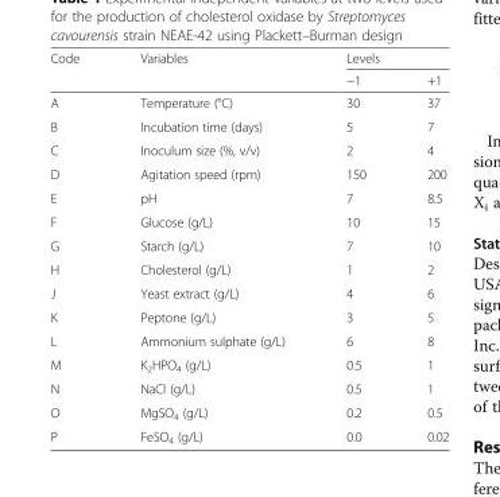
<table><thead><tr><td rowspan="2">Code</td><td rowspan="2">Variables</td><td colspan="2">Levels</td></tr><tr><td>−1</td><td>+1</td></tr></thead><tbody><tr><td>A</td><td>Temperature (°C)</td><td>30</td><td>37</td></tr><tr><td>B</td><td>Incubation time (days)</td><td>5</td><td>7</td></tr><tr><td>C</td><td>Inoculum size (%, v/v)</td><td>2</td><td>4</td></tr><tr><td>D</td><td>Agitation speed (rpm)</td><td>150</td><td>200</td></tr><tr><td>E</td><td>pH</td><td>7</td><td>8.5</td></tr><tr><td>F</td><td>Glucose (g/L)</td><td>10</td><td>15</td></tr><tr><td>G</td><td>Starch (g/L)</td><td>7</td><td>10</td></tr><tr><td>H</td><td>Cholesterol (g/L)</td><td>1</td><td>2</td></tr><tr><td>J</td><td>Yeast extract (g/L)</td><td>4</td><td>6</td></tr><tr><td>K</td><td>Peptone (g/L)</td><td>3</td><td>5</td></tr><tr><td>L</td><td>Ammonium sulphate (g/L)</td><td>6</td><td>8</td></tr><tr><td>M</td><td>K<sub>2</sub>HPO<sub>4</sub> (g/L)</td><td>0.5</td><td>1</td></tr><tr><td>N</td><td>NaCl (g/L)</td><td>0.5</td><td>1</td></tr><tr><td>O</td><td>MgSO<sub>4</sub> (g/L)</td><td>0.2</td><td>0.5</td></tr><tr><td>P</td><td>FeSO<sub>4</sub> (g/L)</td><td>0.0</td><td>0.02</td></tr></tbody></table>